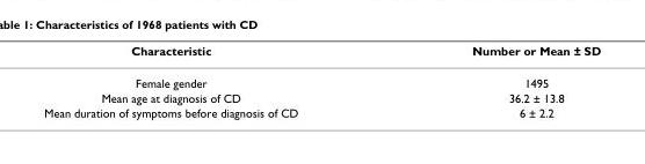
<table><thead><tr><td>Characteristic</td><td>Number or Mean ± SD</td></tr></thead><tbody><tr><td>Female gender</td><td>1495</td></tr><tr><td>Mean age at diagnosis of CD</td><td>36.2 ± 13.8</td></tr><tr><td>Mean duration of symptoms before diagnosis of CD</td><td>6 ± 2.2</td></tr></tbody></table>